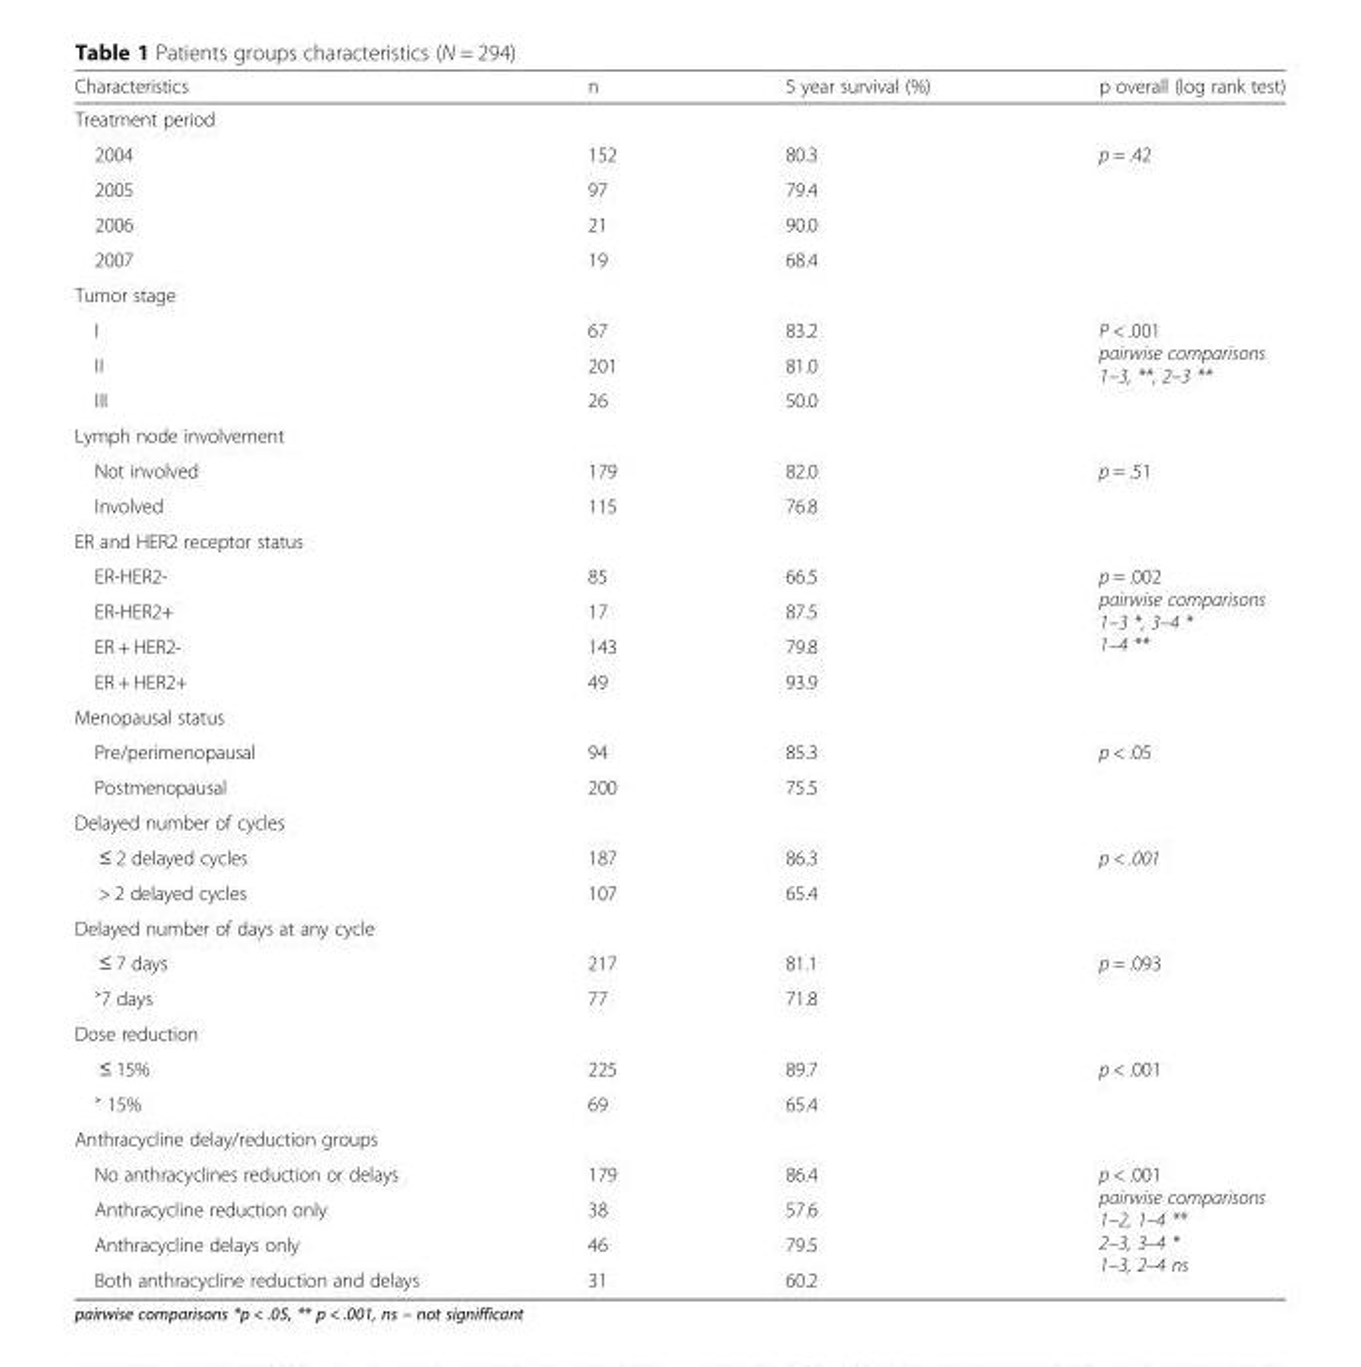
<table><thead><tr><td>Characteristics</td><td>n</td><td>5 year survival (%)</td><td>p overall (log rank test)</td></tr></thead><tbody><tr><td colspan="4">Treatment period</td></tr><tr><td>2004</td><td>152</td><td>80.3</td><td rowspan="4">p = .42</td></tr><tr><td>2005</td><td>97</td><td>79.4</td></tr><tr><td>2006</td><td>21</td><td>90.0</td></tr><tr><td>2007</td><td>19</td><td>68.4</td></tr><tr><td colspan="4">Tumor stage</td></tr><tr><td>I</td><td>67</td><td>83.2</td><td rowspan="3">P &lt; .001 pairwise comparisons 1–3, **, 2–3 **</td></tr><tr><td>II</td><td>201</td><td>81.0</td></tr><tr><td>III</td><td>26</td><td>50.0</td></tr><tr><td colspan="4">Lymph node involvement</td></tr><tr><td>Not involved</td><td>179</td><td>82.0</td><td rowspan="2">p = .51</td></tr><tr><td>Involved</td><td>115</td><td>76.8</td></tr><tr><td colspan="4">ER and HER2 receptor status</td></tr><tr><td>ER-HER2-</td><td>85</td><td>66.5</td><td rowspan="4">p = .002 pairwise comparisons 1–3 *, 3–4 * 1–4 **</td></tr><tr><td>ER-HER2+</td><td>17</td><td>87.5</td></tr><tr><td>ER + HER2-</td><td>143</td><td>79.8</td></tr><tr><td>ER + HER2+</td><td>49</td><td>93.9</td></tr><tr><td colspan="4">Menopausal status</td></tr><tr><td>Pre/perimenopausal</td><td>94</td><td>85.3</td><td rowspan="2">p &lt; .05</td></tr><tr><td>Postmenopausal</td><td>200</td><td>75.5</td></tr><tr><td colspan="4">Delayed number of cycles</td></tr><tr><td>≤ 2 delayed cycles</td><td>187</td><td>86.3</td><td rowspan="2">p &lt; .001</td></tr><tr><td>&gt; 2 delayed cycles</td><td>107</td><td>65.4</td></tr><tr><td colspan="4">Delayed number of days at any cycle</td></tr><tr><td>≤ 7 days</td><td>217</td><td>81.1</td><td rowspan="2">p = .093</td></tr><tr><td>˃7 days</td><td>77</td><td>71.8</td></tr><tr><td colspan="4">Dose reduction</td></tr><tr><td>≤ 15%</td><td>225</td><td>89.7</td><td rowspan="2">p &lt; .001</td></tr><tr><td>˃ 15%</td><td>69</td><td>65.4</td></tr><tr><td colspan="4">Anthracycline delay/reduction groups</td></tr><tr><td>No anthracyclines reduction or delays</td><td>179</td><td>86.4</td><td rowspan="4">p &lt; .001 pairwise comparisons 1–2, 1–4 ** 2–3, 3–4 * 1–3, 2–4 ns</td></tr><tr><td>Anthracycline reduction only</td><td>38</td><td>57.6</td></tr><tr><td>Anthracycline delays only</td><td>46</td><td>79.5</td></tr><tr><td>Both anthracycline reduction and delays</td><td>31</td><td>60.2</td></tr></tbody></table>